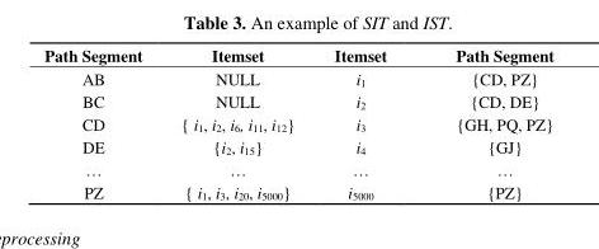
<table><thead><tr><td>Path Segment</td><td>Itemset</td><td>Itemset</td><td>Path Segment</td></tr></thead><tbody><tr><td>AB</td><td>NULL</td><td>i<sub>1</sub></td><td>{CD, PZ}</td></tr><tr><td>BC</td><td>NULL</td><td>i<sub>2</sub></td><td>{CD, DE}</td></tr><tr><td>CD</td><td>{ i<sub>1</sub>, i<sub>2</sub>, i<sub>6</sub>, i<sub>11</sub>, i<sub>12</sub>}</td><td>i<sub>3</sub></td><td>{GH, PQ, PZ}</td></tr><tr><td>DE</td><td>{i<sub>2</sub>, i<sub>15</sub>}</td><td>i<sub>4</sub></td><td>{GJ}</td></tr><tr><td>…</td><td>…</td><td>…</td><td>…</td></tr><tr><td>PZ</td><td>{ i<sub>1</sub>, i<sub>3</sub>, i<sub>20</sub>, i<sub>5000</sub>}</td><td>i<sub>5000</sub></td><td>{PZ}</td></tr></tbody></table>